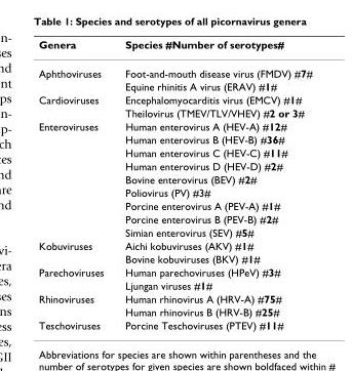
<table><thead><tr><td>Genera</td><td>Species #Number of serotypes#</td></tr></thead><tbody><tr><td rowspan="2">Aphthoviruses</td><td>Foot-and-mouth disease virus (FMDV) #7#</td></tr><tr><td>Equine rhinitis A virus (ERAV) #1#</td></tr><tr><td rowspan="2">Cardioviruses</td><td>Encephalomyocarditis virus (EMCV) #1#</td></tr><tr><td>Theilovirus (TMEV/TLV/VHEV) #2 or 3#</td></tr><tr><td rowspan="9">Enteroviruses</td><td>Human enterovirus A (HEV-A) #12#</td></tr><tr><td>Human enterovirus B (HEV-B) #36#</td></tr><tr><td>Human enterovirus C (HEV-C) #11#</td></tr><tr><td>Human enterovirus D (HEV-D) #2#</td></tr><tr><td>Bovine enterovirus (BEV) #2#</td></tr><tr><td>Poliovirus (PV) #3#</td></tr><tr><td>Porcine enterovirus A (PEV-A) #1#</td></tr><tr><td>Porcine enterovirus B (PEV-B) #2#</td></tr><tr><td>Simian enterovirus (SEV) #5#</td></tr><tr><td rowspan="2">Kobuviruses</td><td>Aichi kobuviruses (AKV) #1#</td></tr><tr><td>Bovine kobuviruses (BKV) #1#</td></tr><tr><td rowspan="2">Parechoviruses</td><td>Human parechoviruses (HPeV) #3#</td></tr><tr><td>Ljungan viruses #1#</td></tr><tr><td rowspan="2">Rhinoviruses</td><td>Human rhinovirus A (HRV-A) #75#</td></tr><tr><td>Human rhinovirus B (HRV-B) #25#</td></tr><tr><td>Teschoviruses</td><td>Porcine Teschoviruses (PTEV) #11#</td></tr></tbody></table>